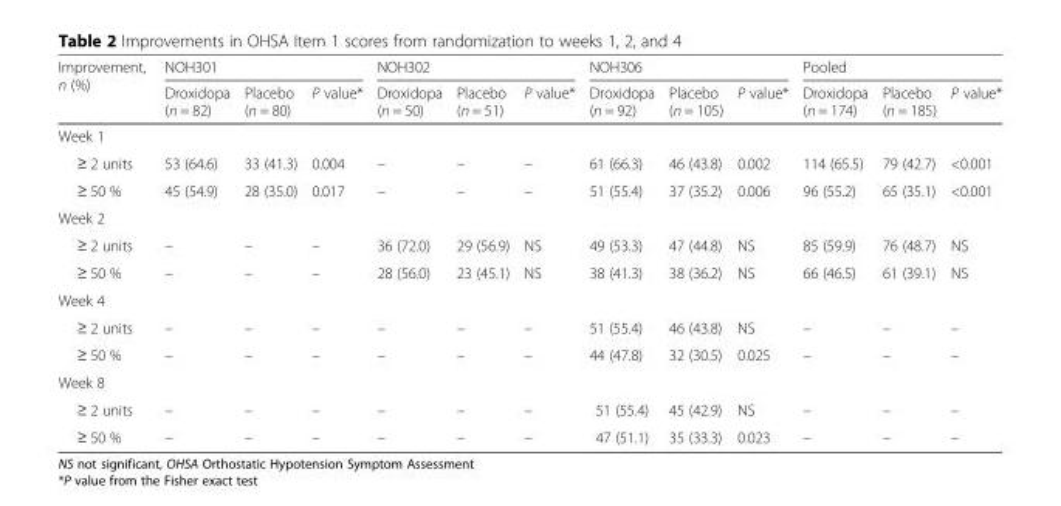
<table><thead><tr><td rowspan="2">Improvement, n (%)</td><td colspan="3">NOH301</td><td colspan="3">NOH302</td><td colspan="3">NOH306</td><td colspan="3">Pooled</td></tr><tr><td>Droxidopa (n = 82)</td><td>Placebo (n = 80)</td><td>P value*</td><td>Droxidopa (n = 50)</td><td>Placebo (n = 51)</td><td>P value*</td><td>Droxidopa (n = 92)</td><td>Placebo (n = 105)</td><td>P value*</td><td>Droxidopa (n = 174)</td><td>Placebo (n = 185)</td><td>P value*</td></tr></thead><tbody><tr><td colspan="13">Week 1</td></tr><tr><td>≥ 2 units</td><td>53 (64.6)</td><td>33 (41.3)</td><td>0.004</td><td>–</td><td>–</td><td>–</td><td>61 (66.3)</td><td>46 (43.8)</td><td>0.002</td><td>114 (65.5)</td><td>79 (42.7)</td><td>&lt;0.001</td></tr><tr><td>≥ 50 %</td><td>45 (54.9)</td><td>28 (35.0)</td><td>0.017</td><td>–</td><td>–</td><td>–</td><td>51 (55.4)</td><td>37 (35.2)</td><td>0.006</td><td>96 (55.2)</td><td>65 (35.1)</td><td>&lt;0.001</td></tr><tr><td colspan="13">Week 2</td></tr><tr><td>≥ 2 units</td><td>–</td><td>–</td><td>–</td><td>36 (72.0)</td><td>29 (56.9)</td><td>NS</td><td>49 (53.3)</td><td>47 (44.8)</td><td>NS</td><td>85 (59.9)</td><td>76 (48.7)</td><td>NS</td></tr><tr><td>≥ 50 %</td><td>–</td><td>–</td><td>–</td><td>28 (56.0)</td><td>23 (45.1)</td><td>NS</td><td>38 (41.3)</td><td>38 (36.2)</td><td>NS</td><td>66 (46.5)</td><td>61 (39.1)</td><td>NS</td></tr><tr><td colspan="13">Week 4</td></tr><tr><td>≥ 2 units</td><td>–</td><td>–</td><td>–</td><td>–</td><td>–</td><td>–</td><td>51 (55.4)</td><td>46 (43.8)</td><td>NS</td><td>–</td><td>–</td><td>–</td></tr><tr><td>≥ 50 %</td><td>–</td><td>–</td><td>–</td><td>–</td><td>–</td><td>–</td><td>44 (47.8)</td><td>32 (30.5)</td><td>0.025</td><td>–</td><td>–</td><td>–</td></tr><tr><td colspan="13">Week 8</td></tr><tr><td>≥ 2 units</td><td>–</td><td>–</td><td>–</td><td>–</td><td>–</td><td>–</td><td>51 (55.4)</td><td>45 (42.9)</td><td>NS</td><td>–</td><td>–</td><td>–</td></tr><tr><td>≥ 50 %</td><td>–</td><td>–</td><td>–</td><td>–</td><td>–</td><td>–</td><td>47 (51.1)</td><td>35 (33.3)</td><td>0.023</td><td>–</td><td>–</td><td>–</td></tr></tbody></table>